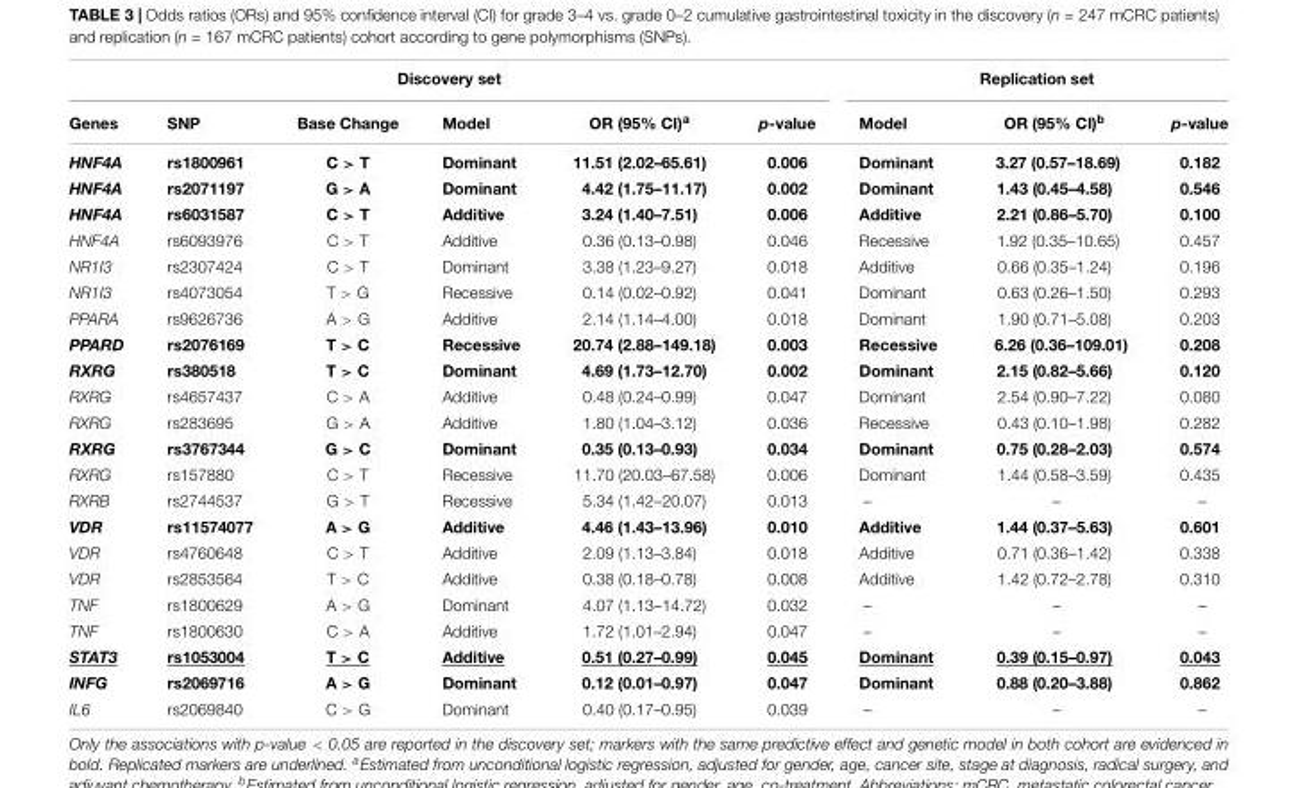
<table><thead><tr><td colspan="6">Discovery set</td><td colspan="3">Replication set</td></tr><tr><td>Genes</td><td>SNP</td><td>Base Change</td><td>Model</td><td>OR (95% CI)<sup>a</sup></td><td>p-value</td><td>Model</td><td>OR (95% CI)<sup>b</sup></td><td>p-value</td></tr></thead><tbody><tr><td>HNF4A</td><td>rs1800961</td><td>C &gt; T</td><td>Dominant</td><td>11.51 (2.02–65.61)</td><td>0.006</td><td>Dominant</td><td>3.27 (0.57–18.69)</td><td>0.182</td></tr><tr><td>HNF4A</td><td>rs2071197</td><td>G &gt; A</td><td>Dominant</td><td>4.42 (1.75–11.17)</td><td>0.002</td><td>Dominant</td><td>1.43 (0.45–4.58)</td><td>0.546</td></tr><tr><td>HNF4A</td><td>rs6031587</td><td>C &gt; T</td><td>Additive</td><td>3.24 (1.40–7.51)</td><td>0.006</td><td>Additive</td><td>2.21 (0.86–5.70)</td><td>0.100</td></tr><tr><td>HNF4A</td><td>rs6093976</td><td>C &gt; T</td><td>Additive</td><td>0.36 (0.13–0.98)</td><td>0.046</td><td>Recessive</td><td>1.92 (0.35–10.65)</td><td>0.457</td></tr><tr><td>NR1I3</td><td>rs2307424</td><td>C &gt; T</td><td>Dominant</td><td>3.38 (1.23–9.27)</td><td>0.018</td><td>Additive</td><td>0.66 (0.35–1.24)</td><td>0.196</td></tr><tr><td>NR1I3</td><td>rs4073054</td><td>T &gt; G</td><td>Recessive</td><td>0.14 (0.02–0.92)</td><td>0.041</td><td>Dominant</td><td>0.63 (0.26–1.50)</td><td>0.293</td></tr><tr><td>PPARA</td><td>rs9626736</td><td>A &gt; G</td><td>Additive</td><td>2.14 (1.14–4.00)</td><td>0.018</td><td>Dominant</td><td>1.90 (0.71–5.08)</td><td>0.203</td></tr><tr><td>PPARD</td><td>rs2076169</td><td>T &gt; C</td><td>Recessive</td><td>20.74 (2.88–149.18)</td><td>0.003</td><td>Recessive</td><td>6.26 (0.36–109.01)</td><td>0.208</td></tr><tr><td>RXRG</td><td>rs380518</td><td>T &gt; C</td><td>Dominant</td><td>4.69 (1.73–12.70)</td><td>0.002</td><td>Dominant</td><td>2.15 (0.82–5.66)</td><td>0.120</td></tr><tr><td>RXRG</td><td>rs4657437</td><td>C &gt; A</td><td>Additive</td><td>0.48 (0.24–0.99)</td><td>0.047</td><td>Dominant</td><td>2.54 (0.90–7.22)</td><td>0.080</td></tr><tr><td>RXRG</td><td>rs283695</td><td>G &gt; A</td><td>Additive</td><td>1.80 (1.04–3.12)</td><td>0.036</td><td>Recessive</td><td>0.43 (0.10–1.98)</td><td>0.282</td></tr><tr><td>RXRG</td><td>rs3767344</td><td>G &gt; C</td><td>Dominant</td><td>0.35 (0.13–0.93)</td><td>0.034</td><td>Dominant</td><td>0.75 (0.28–2.03)</td><td>0.574</td></tr><tr><td>RXRG</td><td>rs157880</td><td>C &gt; T</td><td>Recessive</td><td>11.70 (20.03–67.58)</td><td>0.006</td><td>Dominant</td><td>1.44 (0.58–3.59)</td><td>0.435</td></tr><tr><td>RXRB</td><td>rs2744537</td><td>G &gt; T</td><td>Recessive</td><td>5.34 (1.42–20.07)</td><td>0.013</td><td>–</td><td>–</td><td>–</td></tr><tr><td>VDR</td><td>rs11574077</td><td>A &gt; G</td><td>Additive</td><td>4.46 (1.43–13.96)</td><td>0.010</td><td>Additive</td><td>1.44 (0.37–5.63)</td><td>0.601</td></tr><tr><td>VDR</td><td>rs4760648</td><td>C &gt; T</td><td>Additive</td><td>2.09 (1.13–3.84)</td><td>0.018</td><td>Additive</td><td>0.71 (0.36–1.42)</td><td>0.338</td></tr><tr><td>VDR</td><td>rs2853564</td><td>T &gt; C</td><td>Additive</td><td>0.38 (0.18–0.78)</td><td>0.008</td><td>Additive</td><td>1.42 (0.72–2.78)</td><td>0.310</td></tr><tr><td>TNF</td><td>rs1800629</td><td>A &gt; G</td><td>Dominant</td><td>4.07 (1.13–14.72)</td><td>0.032</td><td>–</td><td>–</td><td>–</td></tr><tr><td>TNF</td><td>rs1800630</td><td>C &gt; A</td><td>Additive</td><td>1.72 (1.01–2.94)</td><td>0.047</td><td>–</td><td>–</td><td>–</td></tr><tr><td>STAT3</td><td>rs1053004</td><td>T &gt; C</td><td>Additive</td><td>0.51 (0.27–0.99)</td><td>0.045</td><td>Dominant</td><td>0.39 (0.15–0.97)</td><td>0.043</td></tr><tr><td>INFG</td><td>rs2069716</td><td>A &gt; G</td><td>Dominant</td><td>0.12 (0.01–0.97)</td><td>0.047</td><td>Dominant</td><td>0.88 (0.20–3.88)</td><td>0.862</td></tr><tr><td>IL6</td><td>rs2069840</td><td>C &gt; G</td><td>Dominant</td><td>0.40 (0.17–0.95)</td><td>0.039</td><td>–</td><td>–</td><td>–</td></tr></tbody></table>